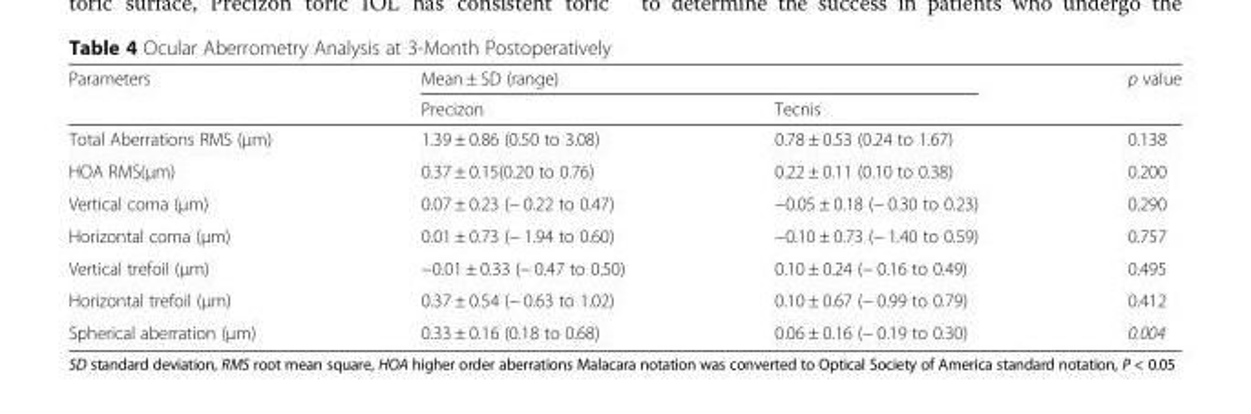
<table><thead><tr><td rowspan="2">Parameters</td><td colspan="2">Mean ± SD (range)</td><td rowspan="2">p value</td></tr><tr><td>Precizon</td><td>Tecnis</td></tr></thead><tbody><tr><td>Total Aberrations RMS (μm)</td><td>1.39 ± 0.86 (0.50 to 3.08)</td><td>0.78 ± 0.53 (0.24 to 1.67)</td><td>0.138</td></tr><tr><td>HOA RMS(μm)</td><td>0.37 ± 0.15(0.20 to 0.76)</td><td>0.22 ± 0.11 (0.10 to 0.38)</td><td>0.200</td></tr><tr><td>Vertical coma (μm)</td><td>0.07 ± 0.23 (− 0.22 to 0.47)</td><td>−0.05 ± 0.18 (− 0.30 to 0.23)</td><td>0.290</td></tr><tr><td>Horizontal coma (μm)</td><td>0.01 ± 0.73 (− 1.94 to 0.60)</td><td>−0.10 ± 0.73 (− 1.40 to 0.59)</td><td>0.757</td></tr><tr><td>Vertical trefoil (μm)</td><td>−0.01 ± 0.33 (− 0.47 to 0.50)</td><td>0.10 ± 0.24 (− 0.16 to 0.49)</td><td>0.495</td></tr><tr><td>Horizontal trefoil (μm)</td><td>0.37 ± 0.54 (− 0.63 to 1.02)</td><td>0.10 ± 0.67 (− 0.99 to 0.79)</td><td>0.412</td></tr><tr><td>Spherical aberration (μm)</td><td>0.33 ± 0.16 (0.18 to 0.68)</td><td>0.06 ± 0.16 (− 0.19 to 0.30)</td><td>0.004</td></tr></tbody></table>